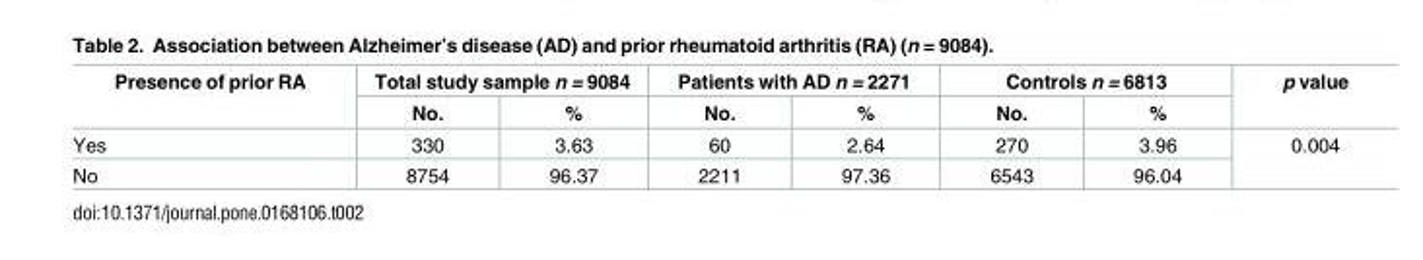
<table><thead><tr><td rowspan="2">Presence of prior RA</td><td colspan="2">Total study sample n = 9084</td><td colspan="2">Patients with AD n = 2271</td><td colspan="2">Controls n = 6813</td><td rowspan="2">p value</td></tr><tr><td>No.</td><td>%</td><td>No.</td><td>%</td><td>No.</td><td>%</td></tr></thead><tbody><tr><td>Yes</td><td>330</td><td>3.63</td><td>60</td><td>2.64</td><td>270</td><td>3.96</td><td rowspan="2">0.004</td></tr><tr><td>No</td><td>8754</td><td>96.37</td><td>2211</td><td>97.36</td><td>6543</td><td>96.04</td></tr></tbody></table>